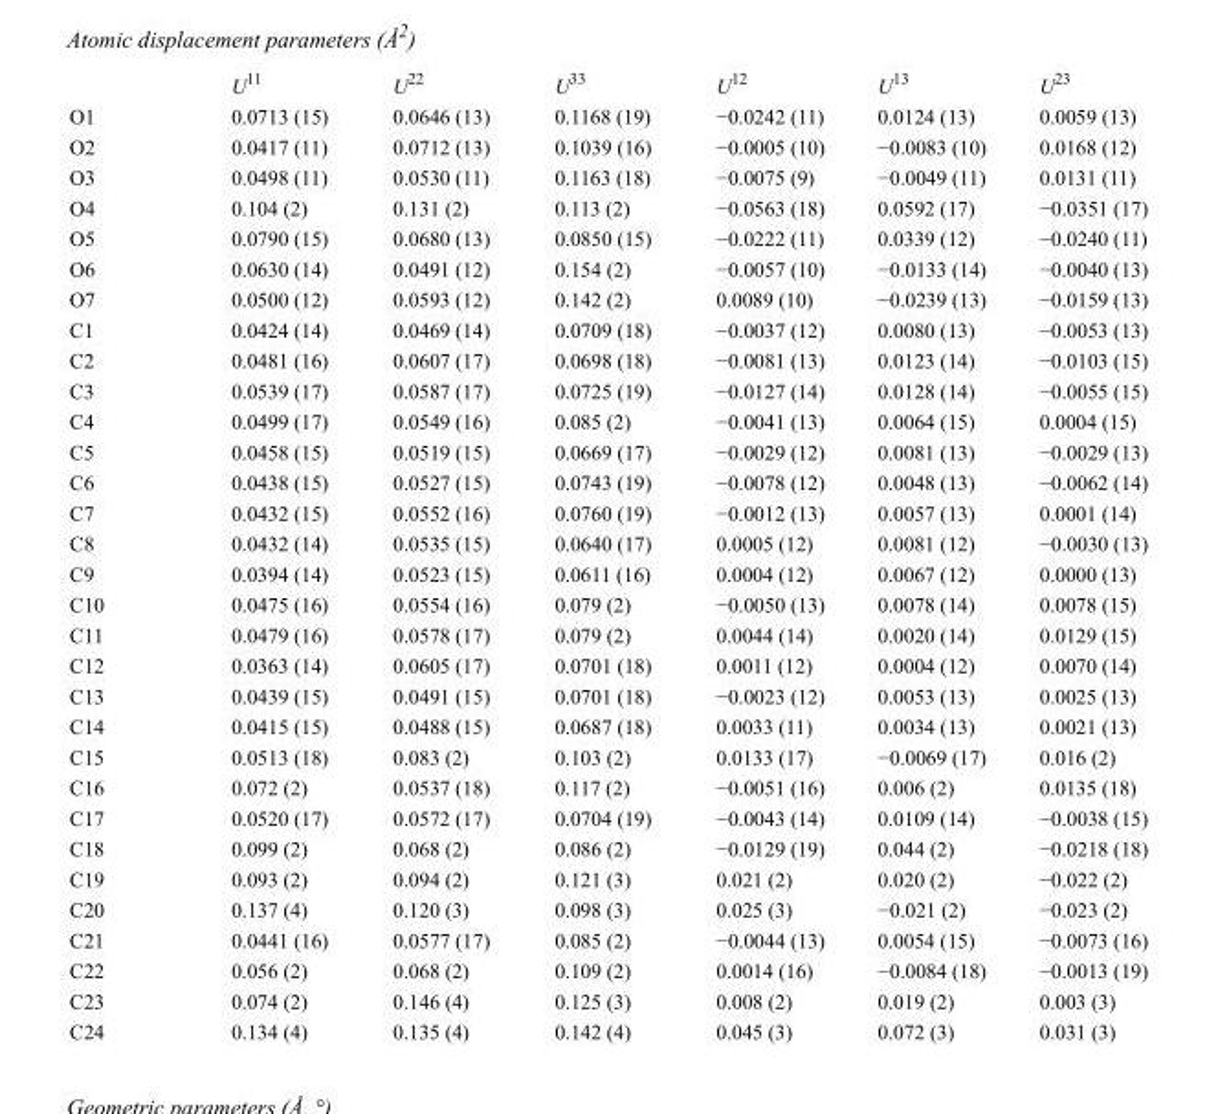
<table><thead><tr><td></td><td>U<sup>11</sup></td><td>U<sup>22</sup></td><td>U<sup>33</sup></td><td>U<sup>12</sup></td><td>U<sup>13</sup></td><td>U<sup>23</sup></td></tr></thead><tbody><tr><td>O1</td><td>0.0713 (15)</td><td>0.0646 (13)</td><td>0.1168 (19)</td><td>−0.0242 (11)</td><td>0.0124 (13)</td><td>0.0059 (13)</td></tr><tr><td>O2</td><td>0.0417 (11)</td><td>0.0712 (13)</td><td>0.1039 (16)</td><td>−0.0005 (10)</td><td>−0.0083 (10)</td><td>0.0168 (12)</td></tr><tr><td>O3</td><td>0.0498 (11)</td><td>0.0530 (11)</td><td>0.1163 (18)</td><td>−0.0075 (9)</td><td>−0.0049 (11)</td><td>0.0131 (11)</td></tr><tr><td>O4</td><td>0.104 (2)</td><td>0.131 (2)</td><td>0.113 (2)</td><td>−0.0563 (18)</td><td>0.0592 (17)</td><td>−0.0351 (17)</td></tr><tr><td>O5</td><td>0.0790 (15)</td><td>0.0680 (13)</td><td>0.0850 (15)</td><td>−0.0222 (11)</td><td>0.0339 (12)</td><td>−0.0240 (11)</td></tr><tr><td>O6</td><td>0.0630 (14)</td><td>0.0491 (12)</td><td>0.154 (2)</td><td>−0.0057 (10)</td><td>−0.0133 (14)</td><td>−0.0040 (13)</td></tr><tr><td>O7</td><td>0.0500 (12)</td><td>0.0593 (12)</td><td>0.142 (2)</td><td>0.0089 (10)</td><td>−0.0239 (13)</td><td>−0.0159 (13)</td></tr><tr><td>C1</td><td>0.0424 (14)</td><td>0.0469 (14)</td><td>0.0709 (18)</td><td>−0.0037 (12)</td><td>0.0080 (13)</td><td>−0.0053 (13)</td></tr><tr><td>C2</td><td>0.0481 (16)</td><td>0.0607 (17)</td><td>0.0698 (18)</td><td>−0.0081 (13)</td><td>0.0123 (14)</td><td>−0.0103 (15)</td></tr><tr><td>C3</td><td>0.0539 (17)</td><td>0.0587 (17)</td><td>0.0725 (19)</td><td>−0.0127 (14)</td><td>0.0128 (14)</td><td>−0.0055 (15)</td></tr><tr><td>C4</td><td>0.0499 (17)</td><td>0.0549 (16)</td><td>0.085 (2)</td><td>−0.0041 (13)</td><td>0.0064 (15)</td><td>0.0004 (15)</td></tr><tr><td>C5</td><td>0.0458 (15)</td><td>0.0519 (15)</td><td>0.0669 (17)</td><td>−0.0029 (12)</td><td>0.0081 (13)</td><td>−0.0029 (13)</td></tr><tr><td>C6</td><td>0.0438 (15)</td><td>0.0527 (15)</td><td>0.0743 (19)</td><td>−0.0078 (12)</td><td>0.0048 (13)</td><td>−0.0062 (14)</td></tr><tr><td>C7</td><td>0.0432 (15)</td><td>0.0552 (16)</td><td>0.0760 (19)</td><td>−0.0012 (13)</td><td>0.0057 (13)</td><td>0.0001 (14)</td></tr><tr><td>C8</td><td>0.0432 (14)</td><td>0.0535 (15)</td><td>0.0640 (17)</td><td>0.0005 (12)</td><td>0.0081 (12)</td><td>−0.0030 (13)</td></tr><tr><td>C9</td><td>0.0394 (14)</td><td>0.0523 (15)</td><td>0.0611 (16)</td><td>0.0004 (12)</td><td>0.0067 (12)</td><td>0.0000 (13)</td></tr><tr><td>C10</td><td>0.0475 (16)</td><td>0.0554 (16)</td><td>0.079 (2)</td><td>−0.0050 (13)</td><td>0.0078 (14)</td><td>0.0078 (15)</td></tr><tr><td>C11</td><td>0.0479 (16)</td><td>0.0578 (17)</td><td>0.079 (2)</td><td>0.0044 (14)</td><td>0.0020 (14)</td><td>0.0129 (15)</td></tr><tr><td>C12</td><td>0.0363 (14)</td><td>0.0605 (17)</td><td>0.0701 (18)</td><td>0.0011 (12)</td><td>0.0004 (12)</td><td>0.0070 (14)</td></tr><tr><td>C13</td><td>0.0439 (15)</td><td>0.0491 (15)</td><td>0.0701 (18)</td><td>−0.0023 (12)</td><td>0.0053 (13)</td><td>0.0025 (13)</td></tr><tr><td>C14</td><td>0.0415 (15)</td><td>0.0488 (15)</td><td>0.0687 (18)</td><td>0.0033 (11)</td><td>0.0034 (13)</td><td>0.0021 (13)</td></tr><tr><td>C15</td><td>0.0513 (18)</td><td>0.083 (2)</td><td>0.103 (2)</td><td>0.0133 (17)</td><td>−0.0069 (17)</td><td>0.016 (2)</td></tr><tr><td>C16</td><td>0.072 (2)</td><td>0.0537 (18)</td><td>0.117 (2)</td><td>−0.0051 (16)</td><td>0.006 (2)</td><td>0.0135 (18)</td></tr><tr><td>C17</td><td>0.0520 (17)</td><td>0.0572 (17)</td><td>0.0704 (19)</td><td>−0.0043 (14)</td><td>0.0109 (14)</td><td>−0.0038 (15)</td></tr><tr><td>C18</td><td>0.099 (2)</td><td>0.068 (2)</td><td>0.086 (2)</td><td>−0.0129 (19)</td><td>0.044 (2)</td><td>−0.0218 (18)</td></tr><tr><td>C19</td><td>0.093 (2)</td><td>0.094 (2)</td><td>0.121 (3)</td><td>0.021 (2)</td><td>0.020 (2)</td><td>−0.022 (2)</td></tr><tr><td>C20</td><td>0.137 (4)</td><td>0.120 (3)</td><td>0.098 (3)</td><td>0.025 (3)</td><td>−0.021 (2)</td><td>−0.023 (2)</td></tr><tr><td>C21</td><td>0.0441 (16)</td><td>0.0577 (17)</td><td>0.085 (2)</td><td>−0.0044 (13)</td><td>0.0054 (15)</td><td>−0.0073 (16)</td></tr><tr><td>C22</td><td>0.056 (2)</td><td>0.068 (2)</td><td>0.109 (2)</td><td>0.0014 (16)</td><td>−0.0084 (18)</td><td>−0.0013 (19)</td></tr><tr><td>C23</td><td>0.074 (2)</td><td>0.146 (4)</td><td>0.125 (3)</td><td>0.008 (2)</td><td>0.019 (2)</td><td>0.003 (3)</td></tr><tr><td>C24</td><td>0.134 (4)</td><td>0.135 (4)</td><td>0.142 (4)</td><td>0.045 (3)</td><td>0.072 (3)</td><td>0.031 (3)</td></tr></tbody></table>